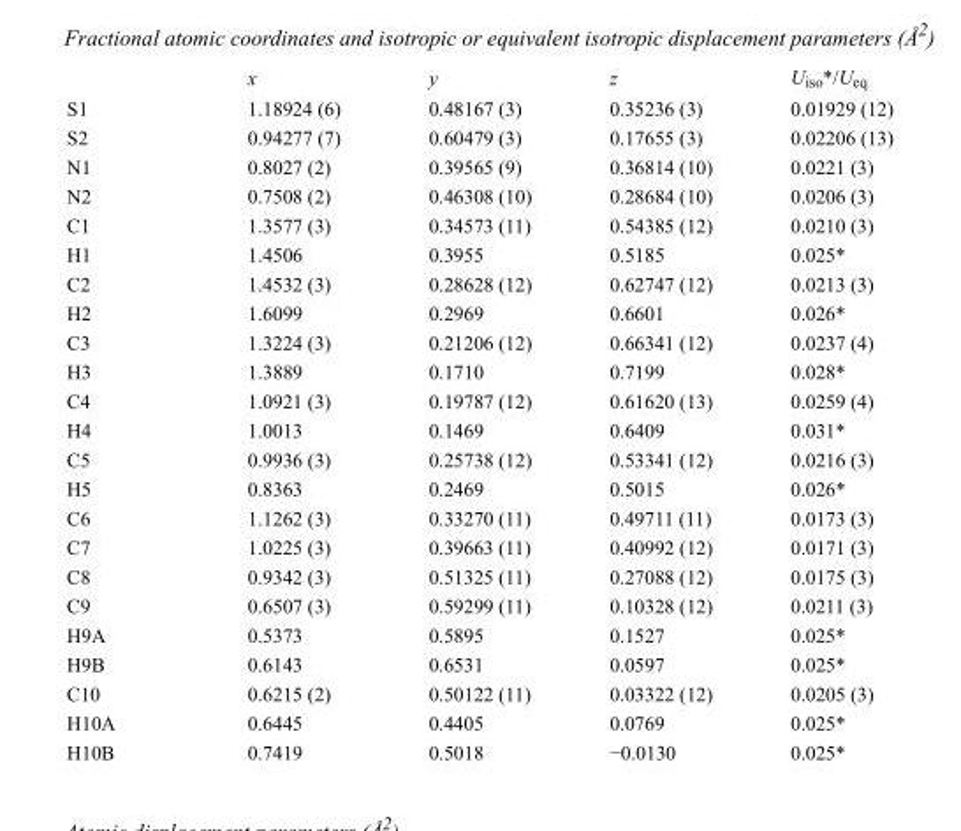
<table><thead><tr><td></td><td>x</td><td>y</td><td>z</td><td>U<sub>iso</sub>*/U<sub>eq</sub></td></tr></thead><tbody><tr><td>S1</td><td>1.18924 (6)</td><td>0.48167 (3)</td><td>0.35236 (3)</td><td>0.01929 (12)</td></tr><tr><td>S2</td><td>0.94277 (7)</td><td>0.60479 (3)</td><td>0.17655 (3)</td><td>0.02206 (13)</td></tr><tr><td>N1</td><td>0.8027 (2)</td><td>0.39565 (9)</td><td>0.36814 (10)</td><td>0.0221 (3)</td></tr><tr><td>N2</td><td>0.7508 (2)</td><td>0.46308 (10)</td><td>0.28684 (10)</td><td>0.0206 (3)</td></tr><tr><td>C1</td><td>1.3577 (3)</td><td>0.34573 (11)</td><td>0.54385 (12)</td><td>0.0210 (3)</td></tr><tr><td>H1</td><td>1.4506</td><td>0.3955</td><td>0.5185</td><td>0.025*</td></tr><tr><td>C2</td><td>1.4532 (3)</td><td>0.28628 (12)</td><td>0.62747 (12)</td><td>0.0213 (3)</td></tr><tr><td>H2</td><td>1.6099</td><td>0.2969</td><td>0.6601</td><td>0.026*</td></tr><tr><td>C3</td><td>1.3224 (3)</td><td>0.21206 (12)</td><td>0.66341 (12)</td><td>0.0237 (4)</td></tr><tr><td>H3</td><td>1.3889</td><td>0.1710</td><td>0.7199</td><td>0.028*</td></tr><tr><td>C4</td><td>1.0921 (3)</td><td>0.19787 (12)</td><td>0.61620 (13)</td><td>0.0259 (4)</td></tr><tr><td>H4</td><td>1.0013</td><td>0.1469</td><td>0.6409</td><td>0.031*</td></tr><tr><td>C5</td><td>0.9936 (3)</td><td>0.25738 (12)</td><td>0.53341 (12)</td><td>0.0216 (3)</td></tr><tr><td>H5</td><td>0.8363</td><td>0.2469</td><td>0.5015</td><td>0.026*</td></tr><tr><td>C6</td><td>1.1262 (3)</td><td>0.33270 (11)</td><td>0.49711 (11)</td><td>0.0173 (3)</td></tr><tr><td>C7</td><td>1.0225 (3)</td><td>0.39663 (11)</td><td>0.40992 (12)</td><td>0.0171 (3)</td></tr><tr><td>C8</td><td>0.9342 (3)</td><td>0.51325 (11)</td><td>0.27088 (12)</td><td>0.0175 (3)</td></tr><tr><td>C9</td><td>0.6507 (3)</td><td>0.59299 (11)</td><td>0.10328 (12)</td><td>0.0211 (3)</td></tr><tr><td>H9A</td><td>0.5373</td><td>0.5895</td><td>0.1527</td><td>0.025*</td></tr><tr><td>H9B</td><td>0.6143</td><td>0.6531</td><td>0.0597</td><td>0.025*</td></tr><tr><td>C10</td><td>0.6215 (2)</td><td>0.50122 (11)</td><td>0.03322 (12)</td><td>0.0205 (3)</td></tr><tr><td>H10A</td><td>0.6445</td><td>0.4405</td><td>0.0769</td><td>0.025*</td></tr><tr><td>H10B</td><td>0.7419</td><td>0.5018</td><td>−0.0130</td><td>0.025*</td></tr></tbody></table>